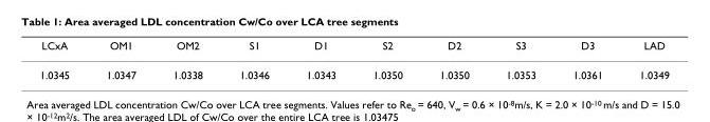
<table><thead><tr><td>LCxA</td><td>OM1</td><td>OM2</td><td>S1</td><td>D1</td><td>S2</td><td>D2</td><td>S3</td><td>D3</td><td>LAD</td></tr></thead><tbody><tr><td>1.0345</td><td>1.0347</td><td>1.0338</td><td>1.0346</td><td>1.0343</td><td>1.0350</td><td>1.0350</td><td>1.0353</td><td>1.0361</td><td>1.0349</td></tr></tbody></table>